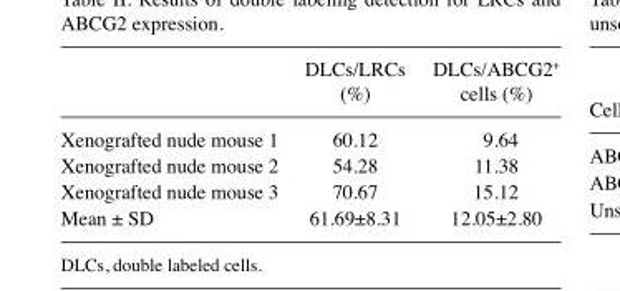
<table><thead><tr><td></td><td>DLCs/LRCs (%)</td><td>DLCs/ABCG2<sup>+</sup> cells (%)</td></tr></thead><tbody><tr><td>Xenografted nude mouse 1</td><td>60.12</td><td>9.64</td></tr><tr><td>Xenografted nude mouse 2</td><td>54.28</td><td>11.38</td></tr><tr><td>Xenografted nude mouse 3</td><td>70.67</td><td>15.12</td></tr><tr><td>Mean ± SD</td><td>61.69±8.31</td><td>12.05±2.80</td></tr></tbody></table>